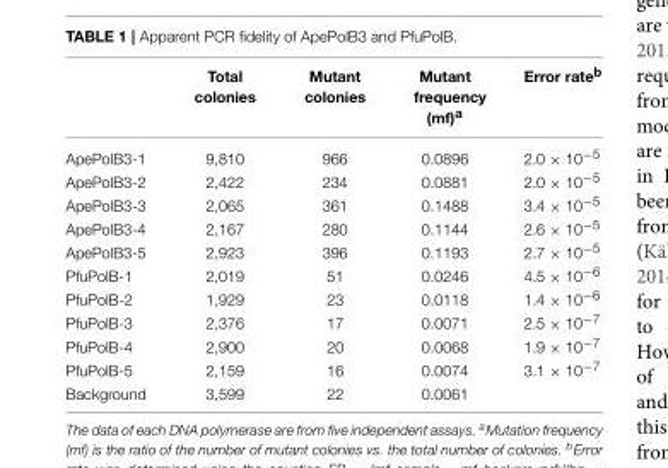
<table><thead><tr><td></td><td>Total colonies</td><td>Mutant colonies</td><td>Mutant frequency (mf)<sup>a</sup></td><td>Error rate<sup>b</sup></td></tr></thead><tbody><tr><td>ApePolB3-1</td><td>9,810</td><td>966</td><td>0.0896</td><td>2.0 × 10<sup>−5</sup></td></tr><tr><td>ApePolB3-2</td><td>2,422</td><td>234</td><td>0.0881</td><td>2.0 × 10<sup>−5</sup></td></tr><tr><td>ApePolB3-3</td><td>2,065</td><td>361</td><td>0.1488</td><td>3.4 × 10<sup>−5</sup></td></tr><tr><td>ApePolB3-4</td><td>2,167</td><td>280</td><td>0.1144</td><td>2.6 × 10<sup>−5</sup></td></tr><tr><td>ApePolB3-5</td><td>2,923</td><td>396</td><td>0.1193</td><td>2.7 × 10<sup>−5</sup></td></tr><tr><td>PfuPolB-1</td><td>2,019</td><td>51</td><td>0.0246</td><td>4.5 × 10<sup>−6</sup></td></tr><tr><td>PfuPolB-2</td><td>1,929</td><td>23</td><td>0.0118</td><td>1.4 × 10<sup>−6</sup></td></tr><tr><td>PfuPolB-3</td><td>2,376</td><td>17</td><td>0.0071</td><td>2.5 × 10<sup>−7</sup></td></tr><tr><td>PfuPolB-4</td><td>2,900</td><td>20</td><td>0.0068</td><td>1.9 × 10<sup>−7</sup></td></tr><tr><td>PfuPolB-5</td><td>2,159</td><td>16</td><td>0.0074</td><td>3.1 × 10<sup>−7</sup></td></tr><tr><td>Background</td><td>3,599</td><td>22</td><td>0.0061</td><td></td></tr></tbody></table>